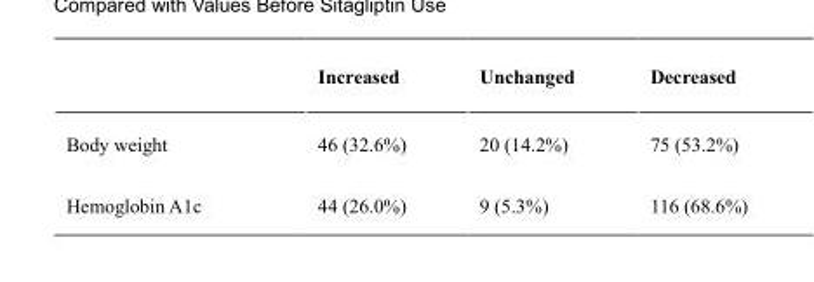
<table><thead><tr><td></td><td>Increased</td><td>Unchanged</td><td>Decreased</td></tr></thead><tbody><tr><td>Body weight</td><td>46 (32.6%)</td><td>20 (14.2%)</td><td>75 (53.2%)</td></tr><tr><td>Hemoglobin A1c</td><td>44 (26.0%)</td><td>9 (5.3%)</td><td>116 (68.6%)</td></tr></tbody></table>